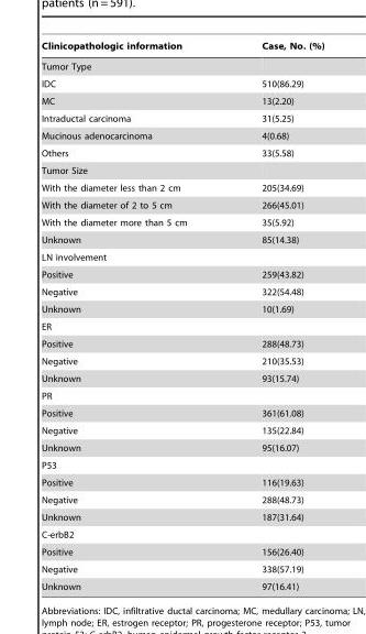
<table><thead><tr><td>Clinicopathologic information</td><td>Case, No. (%)</td></tr></thead><tbody><tr><td colspan="2">Tumor Type</td></tr><tr><td>IDC</td><td>510(86.29)</td></tr><tr><td>MC</td><td>13(2.20)</td></tr><tr><td>Intraductal carcinoma</td><td>31(5.25)</td></tr><tr><td>Mucinous adenocarcinoma</td><td>4(0.68)</td></tr><tr><td>Others</td><td>33(5.58)</td></tr><tr><td colspan="2">Tumor Size</td></tr><tr><td>With the diameter less than 2 cm</td><td>205(34.69)</td></tr><tr><td>With the diameter of 2 to 5 cm</td><td>266(45.01)</td></tr><tr><td>With the diameter more than 5 cm</td><td>35(5.92)</td></tr><tr><td>Unknown</td><td>85(14.38)</td></tr><tr><td colspan="2">LN involvement</td></tr><tr><td>Positive</td><td>259(43.82)</td></tr><tr><td>Negative</td><td>322(54.48)</td></tr><tr><td>Unknown</td><td>10(1.69)</td></tr><tr><td colspan="2">ER</td></tr><tr><td>Positive</td><td>288(48.73)</td></tr><tr><td>Negative</td><td>210(35.53)</td></tr><tr><td>Unknown</td><td>93(15.74)</td></tr><tr><td colspan="2">PR</td></tr><tr><td>Positive</td><td>361(61.08)</td></tr><tr><td>Negative</td><td>135(22.84)</td></tr><tr><td>Unknown</td><td>95(16.07)</td></tr><tr><td colspan="2">P53</td></tr><tr><td>Positive</td><td>116(19.63)</td></tr><tr><td>Negative</td><td>288(48.73)</td></tr><tr><td>Unknown</td><td>187(31.64)</td></tr><tr><td colspan="2">C-erbB2</td></tr><tr><td>Positive</td><td>156(26.40)</td></tr><tr><td>Negative</td><td>338(57.19)</td></tr><tr><td>Unknown</td><td>97(16.41)</td></tr></tbody></table>